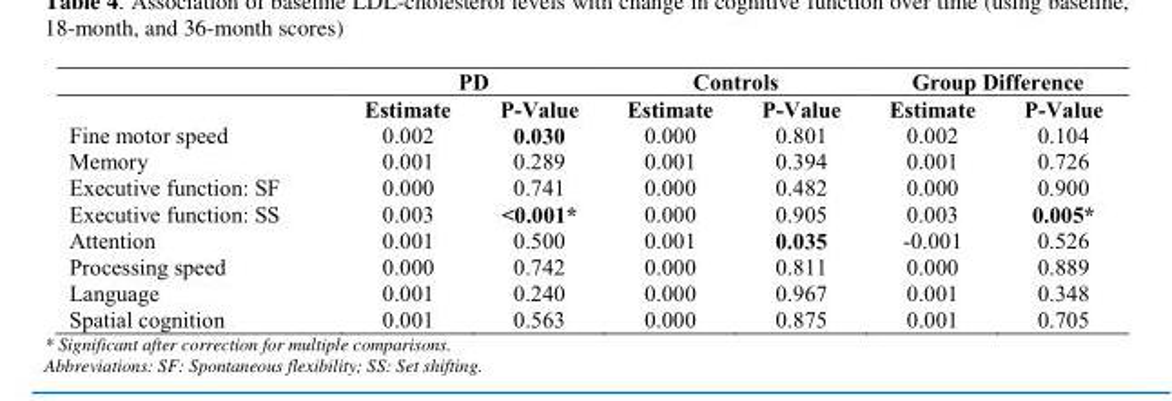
<table><thead><tr><td rowspan="2"></td><td colspan="2">PD</td><td colspan="2">Controls</td><td colspan="2">Group Difference</td></tr><tr><td>Estimate</td><td>P-Value</td><td>Estimate</td><td>P-Value</td><td>Estimate</td><td>P-Value</td></tr></thead><tbody><tr><td>Fine motor speed</td><td>0.002</td><td>0.030</td><td>0.000</td><td>0.801</td><td>0.002</td><td>0.104</td></tr><tr><td>Memory</td><td>0.001</td><td>0.289</td><td>0.001</td><td>0.394</td><td>0.001</td><td>0.726</td></tr><tr><td>Executive function: SF</td><td>0.000</td><td>0.741</td><td>0.000</td><td>0.482</td><td>0.000</td><td>0.900</td></tr><tr><td>Executive function: SS</td><td>0.003</td><td>&lt;0.001*</td><td>0.000</td><td>0.905</td><td>0.003</td><td>0.005*</td></tr><tr><td>Attention</td><td>0.001</td><td>0.500</td><td>0.001</td><td>0.035</td><td>-0.001</td><td>0.526</td></tr><tr><td>Processing speed</td><td>0.000</td><td>0.742</td><td>0.000</td><td>0.811</td><td>0.000</td><td>0.889</td></tr><tr><td>Language</td><td>0.001</td><td>0.240</td><td>0.000</td><td>0.967</td><td>0.001</td><td>0.348</td></tr><tr><td>Spatial cognition</td><td>0.001</td><td>0.563</td><td>0.000</td><td>0.875</td><td>0.001</td><td>0.705</td></tr></tbody></table>